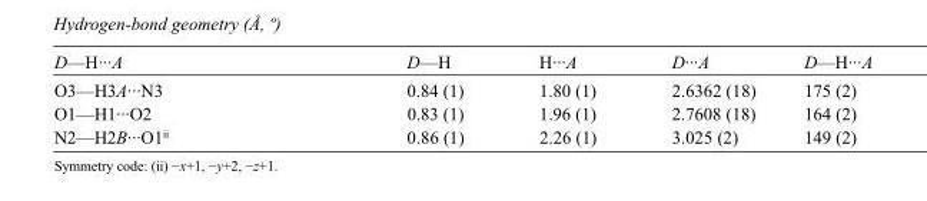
<table><tbody><tr><td>D—H···A</td><td>D—H</td><td>H···A</td><td>D···A</td><td>D—H···A</td></tr><tr><td>O3—H3A···N3</td><td>0.84 (1)</td><td>1.80 (1)</td><td>2.6362 (18)</td><td>175 (2)</td></tr><tr><td>O1—H1···O2</td><td>0.83 (1)</td><td>1.96 (1)</td><td>2.7608 (18)</td><td>164 (2)</td></tr><tr><td>N2—H2B···O1<sup>ii</sup></td><td>0.86 (1)</td><td>2.26 (1)</td><td>3.025 (2)</td><td>149 (2)</td></tr></tbody></table>